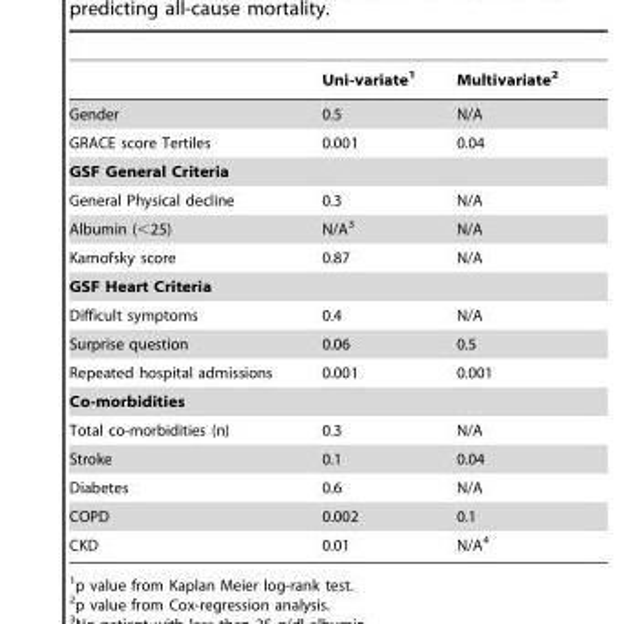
<table><thead><tr><td></td><td>Uni-variate<sup>1</sup></td><td>Multivariate<sup>2</sup></td></tr></thead><tbody><tr><td>Gender</td><td>0.5</td><td>N/A</td></tr><tr><td>GRACE score Tertiles</td><td>0.001</td><td>0.04</td></tr><tr><td colspan="3">GSF General Criteria</td></tr><tr><td>General Physical decline</td><td>0.3</td><td>N/A</td></tr><tr><td>Albumin (&lt;25)</td><td>N/A<sup>3</sup></td><td>N/A</td></tr><tr><td>Karnofsky score</td><td>0.87</td><td>N/A</td></tr><tr><td colspan="3">GSF Heart Criteria</td></tr><tr><td>Difficult symptoms</td><td>0.4</td><td>N/A</td></tr><tr><td>Surprise question</td><td>0.06</td><td>0.5</td></tr><tr><td>Repeated hospital admissions</td><td>0.001</td><td>0.001</td></tr><tr><td colspan="3">Co-morbidities</td></tr><tr><td>Total co-morbidities (n)</td><td>0.3</td><td>N/A</td></tr><tr><td>Stroke</td><td>0.1</td><td>0.04</td></tr><tr><td>Diabetes</td><td>0.6</td><td>N/A</td></tr><tr><td>COPD</td><td>0.002</td><td>0.1</td></tr><tr><td>CKD</td><td>0.01</td><td>N/A<sup>4</sup></td></tr></tbody></table>